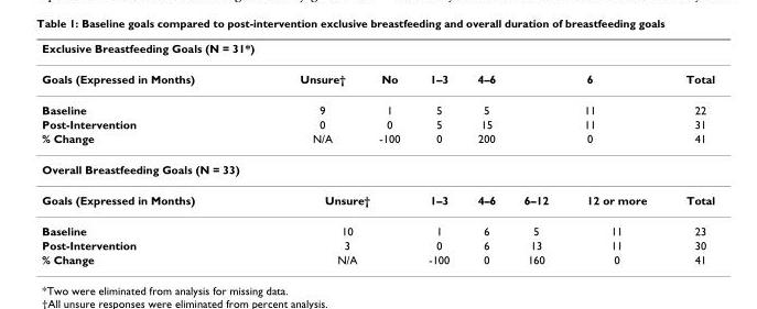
<table><thead><tr><td colspan="8">Exclusive Breastfeeding Goals (N = 31*)</td></tr></thead><tbody><tr><td>Goals (Expressed in Months)</td><td>Unsure†</td><td>No</td><td>1–3</td><td>4–6</td><td colspan="2">6</td><td>Total</td></tr><tr><td>Baseline</td><td>9</td><td>1</td><td>5</td><td>5</td><td colspan="2">11</td><td>22</td></tr><tr><td>Post-Intervention</td><td>0</td><td>0</td><td>5</td><td>15</td><td colspan="2">11</td><td>31</td></tr><tr><td>% Change</td><td>N/A</td><td>-100</td><td>0</td><td>200</td><td colspan="2">0</td><td>41</td></tr><tr><td colspan="8">Overall Breastfeeding Goals (N = 33)</td></tr><tr><td>Goals (Expressed in Months)</td><td colspan="2">Unsure†</td><td>1–3</td><td>4–6</td><td>6–12</td><td>12 or more</td><td>Total</td></tr><tr><td>Baseline</td><td colspan="2">10</td><td>1</td><td>6</td><td>5</td><td>11</td><td>23</td></tr><tr><td>Post-Intervention</td><td colspan="2">3</td><td>0</td><td>6</td><td>13</td><td>11</td><td>30</td></tr><tr><td>% Change</td><td colspan="2">N/A</td><td>-100</td><td>0</td><td>160</td><td>0</td><td>41</td></tr></tbody></table>